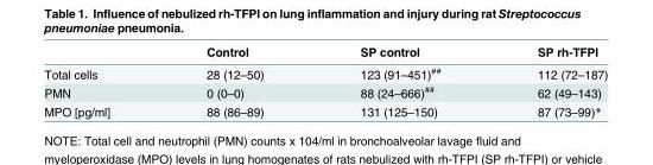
<table><thead><tr><td></td><td>Control</td><td>SP control</td><td>SP rh-TFPI</td></tr></thead><tbody><tr><td>Total cells</td><td>28 (12–50)</td><td>123 (91–451)<sup>##</sup></td><td>112 (72–187)</td></tr><tr><td>PMN</td><td>0 (0–0)</td><td>88 (24–666)<sup>##</sup></td><td>62 (49–143)</td></tr><tr><td>MPO [pg/ml]</td><td>88 (86–89)</td><td>131 (125–150)</td><td>87 (73–99)*</td></tr></tbody></table>